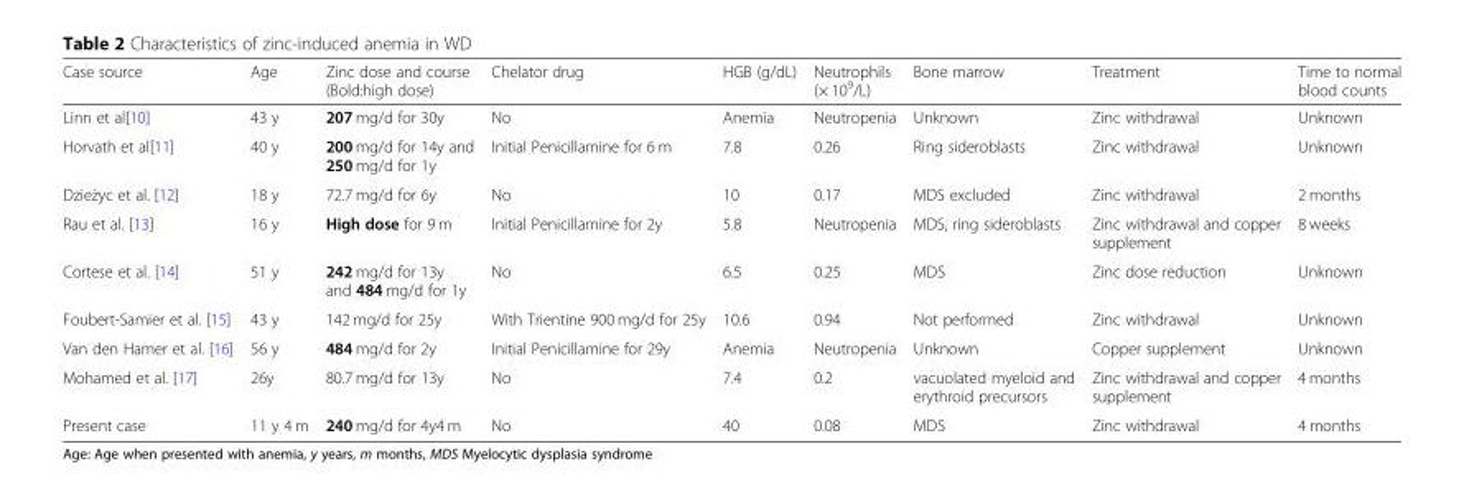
<table><thead><tr><td>Case source</td><td>Age</td><td>Zinc dose and course (Bold:high dose)</td><td>Chelator drug</td><td>HGB (g/dL)</td><td>Neutrophils (× 10<sup>9</sup>/L)</td><td>Bone marrow</td><td>Treatment</td><td>Time to normal blood counts</td></tr></thead><tbody><tr><td>Linn et al[10]</td><td>43 y</td><td>207 mg/d for 30y</td><td>No</td><td>Anemia</td><td>Neutropenia</td><td>Unknown</td><td>Zinc withdrawal</td><td>Unknown</td></tr><tr><td>Horvath et al[11]</td><td>40 y</td><td>200 mg/d for 14y and 250 mg/d for 1y</td><td>Initial Penicillamine for 6 m</td><td>7.8</td><td>0.26</td><td>Ring sideroblasts</td><td>Zinc withdrawal</td><td>Unknown</td></tr><tr><td>Dzieżyc et al. [12]</td><td>18 y</td><td>72.7 mg/d for 6y</td><td>No</td><td>10</td><td>0.17</td><td>MDS excluded</td><td>Zinc withdrawal</td><td>2 months</td></tr><tr><td>Rau et al. [13]</td><td>16 y</td><td>High dose for 9 m</td><td>Initial Penicillamine for 2y</td><td>5.8</td><td>Neutropenia</td><td>MDS, ring sideroblasts</td><td>Zinc withdrawal and copper supplement</td><td>8 weeks</td></tr><tr><td>Cortese et al. [14]</td><td>51 y</td><td>242 mg/d for 13y and 484 mg/d for 1y</td><td>No</td><td>6.5</td><td>0.25</td><td>MDS</td><td>Zinc dose reduction</td><td>Unknown</td></tr><tr><td>Foubert-Samier et al. [15]</td><td>43 y</td><td>142 mg/d for 25y</td><td>With Trientine 900 mg/d for 25y</td><td>10.6</td><td>0.94</td><td>Not performed</td><td>Zinc withdrawal</td><td>Unknown</td></tr><tr><td>Van den Hamer et al. [16]</td><td>56 y</td><td>484 mg/d for 2y</td><td>Initial Penicillamine for 29y</td><td>Anemia</td><td>Neutropenia</td><td>Unknown</td><td>Copper supplement</td><td>Unknown</td></tr><tr><td>Mohamed et al. [17]</td><td>26y</td><td>80.7 mg/d for 13y</td><td>No</td><td>7.4</td><td>0.2</td><td>vacuolated myeloid and erythroid precursors</td><td>Zinc withdrawal and copper supplement</td><td>4 months</td></tr><tr><td>Present case</td><td>11 y 4 m</td><td>240 mg/d for 4y4 m</td><td>No</td><td>40</td><td>0.08</td><td>MDS</td><td>Zinc withdrawal</td><td>4 months</td></tr></tbody></table>